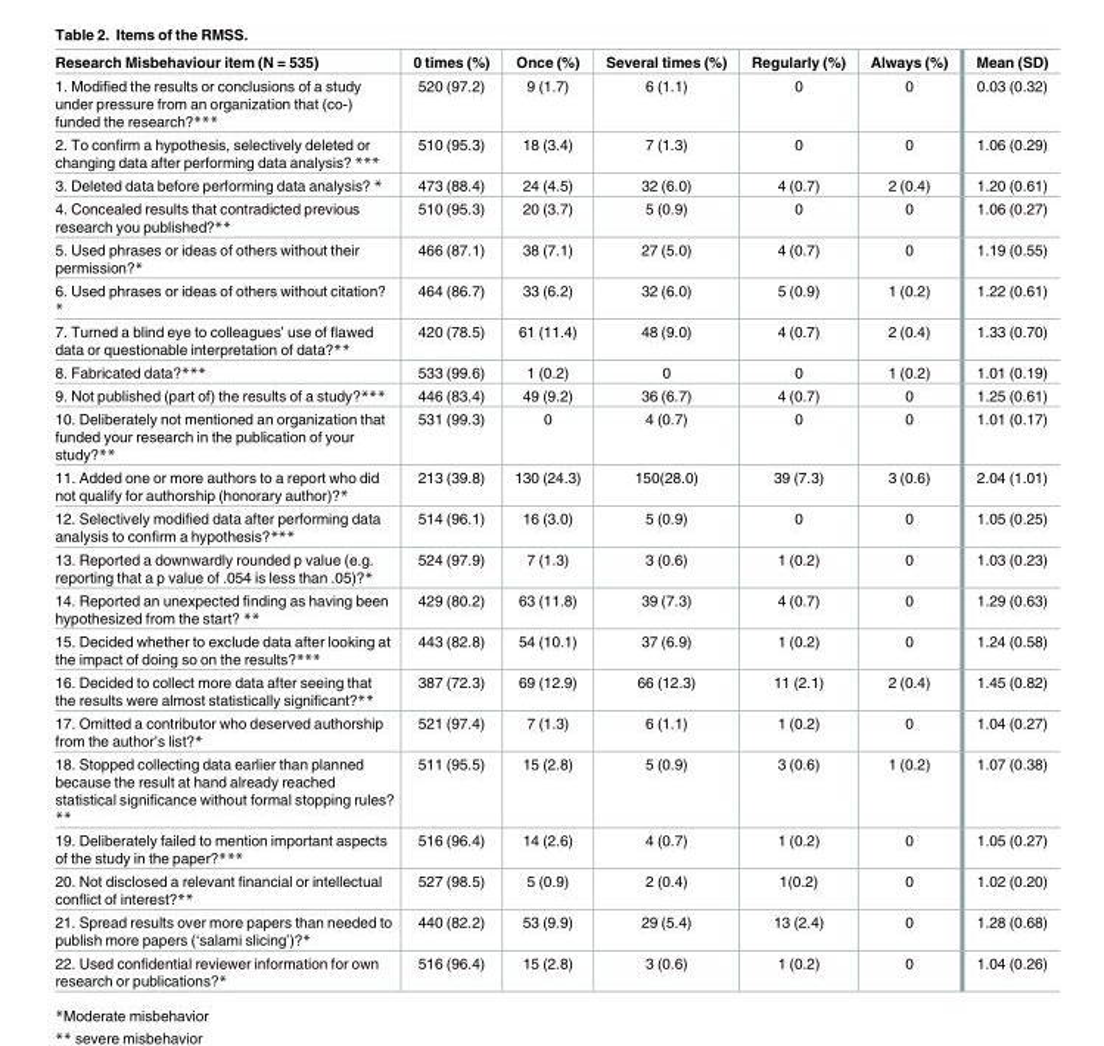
<table><thead><tr><td>Research Misbehaviour item (N = 535)</td><td>0 times (%)</td><td>Once (%)</td><td>Several times (%)</td><td>Regularly (%)</td><td>Always (%)</td><td>Mean (SD)</td></tr></thead><tbody><tr><td>1. Modified the results or conclusions of a study under pressure from an organization that (co-) funded the research?***</td><td>520 (97.2)</td><td>9 (1.7)</td><td>6 (1.1)</td><td>0</td><td>0</td><td>0.03 (0.32)</td></tr><tr><td>2. To confirm a hypothesis, selectively deleted or changing data after performing data analysis? ***</td><td>510 (95.3)</td><td>18 (3.4)</td><td>7 (1.3)</td><td>0</td><td>0</td><td>1.06 (0.29)</td></tr><tr><td>3. Deleted data before performing data analysis? *</td><td>473 (88.4)</td><td>24 (4.5)</td><td>32 (6.0)</td><td>4 (0.7)</td><td>2 (0.4)</td><td>1.20 (0.61)</td></tr><tr><td>4. Concealed results that contradicted previous research you published?**</td><td>510 (95.3)</td><td>20 (3.7)</td><td>5 (0.9)</td><td>0</td><td>0</td><td>1.06 (0.27)</td></tr><tr><td>5. Used phrases or ideas of others without their permission?*</td><td>466 (87.1)</td><td>38 (7.1)</td><td>27 (5.0)</td><td>4 (0.7)</td><td>0</td><td>1.19 (0.55)</td></tr><tr><td>6. Used phrases or ideas of others without citation? *</td><td>464 (86.7)</td><td>33 (6.2)</td><td>32 (6.0)</td><td>5 (0.9)</td><td>1 (0.2)</td><td>1.22 (0.61)</td></tr><tr><td>7. Turned a blind eye to colleagues’ use of flawed data or questionable interpretation of data?**</td><td>420 (78.5)</td><td>61 (11.4)</td><td>48 (9.0)</td><td>4 (0.7)</td><td>2 (0.4)</td><td>1.33 (0.70)</td></tr><tr><td>8. Fabricated data?***</td><td>533 (99.6)</td><td>1 (0.2)</td><td>0</td><td>0</td><td>1 (0.2)</td><td>1.01 (0.19)</td></tr><tr><td>9. Not published (part of) the results of a study?***</td><td>446 (83.4)</td><td>49 (9.2)</td><td>36 (6.7)</td><td>4 (0.7)</td><td>0</td><td>1.25 (0.61)</td></tr><tr><td>10. Deliberately not mentioned an organization that funded your research in the publication of your study?**</td><td>531 (99.3)</td><td>0</td><td>4 (0.7)</td><td>0</td><td>0</td><td>1.01 (0.17)</td></tr><tr><td>11. Added one or more authors to a report who did not qualify for authorship (honorary author)?*</td><td>213 (39.8)</td><td>130 (24.3)</td><td>150(28.0)</td><td>39 (7.3)</td><td>3 (0.6)</td><td>2.04 (1.01)</td></tr><tr><td>12. Selectively modified data after performing data analysis to confirm a hypothesis?***</td><td>514 (96.1)</td><td>16 (3.0)</td><td>5 (0.9)</td><td>0</td><td>0</td><td>1.05 (0.25)</td></tr><tr><td>13. Reported a downwardly rounded p value (e.g. reporting that a p value of .054 is less than .05)?*</td><td>524 (97.9)</td><td>7 (1.3)</td><td>3 (0.6)</td><td>1 (0.2)</td><td>0</td><td>1.03 (0.23)</td></tr><tr><td>14. Reported an unexpected finding as having been hypothesized from the start? **</td><td>429 (80.2)</td><td>63 (11.8)</td><td>39 (7.3)</td><td>4 (0.7)</td><td>0</td><td>1.29 (0.63)</td></tr><tr><td>15. Decided whether to exclude data after looking at the impact of doing so on the results?***</td><td>443 (82.8)</td><td>54 (10.1)</td><td>37 (6.9)</td><td>1 (0.2)</td><td>0</td><td>1.24 (0.58)</td></tr><tr><td>16. Decided to collect more data after seeing that the results were almost statistically significant?**</td><td>387 (72.3)</td><td>69 (12.9)</td><td>66 (12.3)</td><td>11 (2.1)</td><td>2 (0.4)</td><td>1.45 (0.82)</td></tr><tr><td>17. Omitted a contributor who deserved authorship from the author’s list?*</td><td>521 (97.4)</td><td>7 (1.3)</td><td>6 (1.1)</td><td>1 (0.2)</td><td>0</td><td>1.04 (0.27)</td></tr><tr><td>18. Stopped collecting data earlier than planned because the result at hand already reached statistical significance without formal stopping rules? **</td><td>511 (95.5)</td><td>15 (2.8)</td><td>5 (0.9)</td><td>3 (0.6)</td><td>1 (0.2)</td><td>1.07 (0.38)</td></tr><tr><td>19. Deliberately failed to mention important aspects of the study in the paper?***</td><td>516 (96.4)</td><td>14 (2.6)</td><td>4 (0.7)</td><td>1 (0.2)</td><td>0</td><td>1.05 (0.27)</td></tr><tr><td>20. Not disclosed a relevant financial or intellectual conflict of interest?**</td><td>527 (98.5)</td><td>5 (0.9)</td><td>2 (0.4)</td><td>1(0.2)</td><td>0</td><td>1.02 (0.20)</td></tr><tr><td>21. Spread results over more papers than needed to publish more papers (‘salami slicing’)?*</td><td>440 (82.2)</td><td>53 (9.9)</td><td>29 (5.4)</td><td>13 (2.4)</td><td>0</td><td>1.28 (0.68)</td></tr><tr><td>22. Used confidential reviewer information for own research or publications?*</td><td>516 (96.4)</td><td>15 (2.8)</td><td>3 (0.6)</td><td>1 (0.2)</td><td>0</td><td>1.04 (0.26)</td></tr></tbody></table>